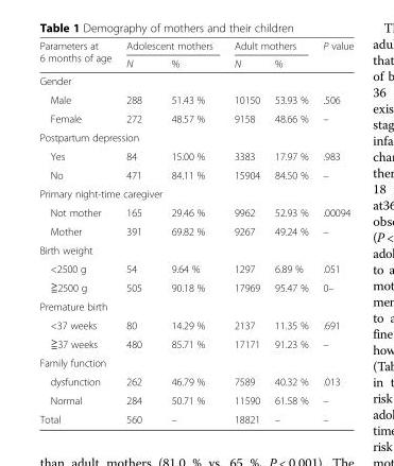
<table><thead><tr><td rowspan="2">Parameters at 6 months of age</td><td colspan="2">Adolescent mothers</td><td colspan="2">Adult mothers</td><td rowspan="2">P value</td></tr><tr><td>N</td><td>%</td><td>N</td><td>%</td></tr></thead><tbody><tr><td colspan="6">Gender</td></tr><tr><td>Male</td><td>288</td><td>51.43 %</td><td>10150</td><td>53.93 %</td><td>.506</td></tr><tr><td>Female</td><td>272</td><td>48.57 %</td><td>9158</td><td>48.66 %</td><td>–</td></tr><tr><td colspan="6">Postpartum depression</td></tr><tr><td>Yes</td><td>84</td><td>15.00 %</td><td>3383</td><td>17.97 %</td><td>.983</td></tr><tr><td>No</td><td>471</td><td>84.11 %</td><td>15904</td><td>84.50 %</td><td>–</td></tr><tr><td colspan="6">Primary night-time caregiver</td></tr><tr><td>Not mother</td><td>165</td><td>29.46 %</td><td>9962</td><td>52.93 %</td><td>.00094</td></tr><tr><td>Mother</td><td>391</td><td>69.82 %</td><td>9267</td><td>49.24 %</td><td>–</td></tr><tr><td colspan="6">Birth weight</td></tr><tr><td>&lt;2500 g</td><td>54</td><td>9.64 %</td><td>1297</td><td>6.89 %</td><td>.051</td></tr><tr><td>≧2500 g</td><td>505</td><td>90.18 %</td><td>17969</td><td>95.47 %</td><td>0–</td></tr><tr><td colspan="6">Premature birth</td></tr><tr><td>&lt;37 weeks</td><td>80</td><td>14.29 %</td><td>2137</td><td>11.35 %</td><td>.691</td></tr><tr><td>≧37 weeks</td><td>480</td><td>85.71 %</td><td>17171</td><td>91.23 %</td><td>–</td></tr><tr><td colspan="6">Family function</td></tr><tr><td>dysfunction</td><td>262</td><td>46.79 %</td><td>7589</td><td>40.32 %</td><td>.013</td></tr><tr><td>Normal</td><td>284</td><td>50.71 %</td><td>11590</td><td>61.58 %</td><td>–</td></tr><tr><td>Total</td><td>560</td><td>–</td><td>18821</td><td>–</td><td>–</td></tr></tbody></table>